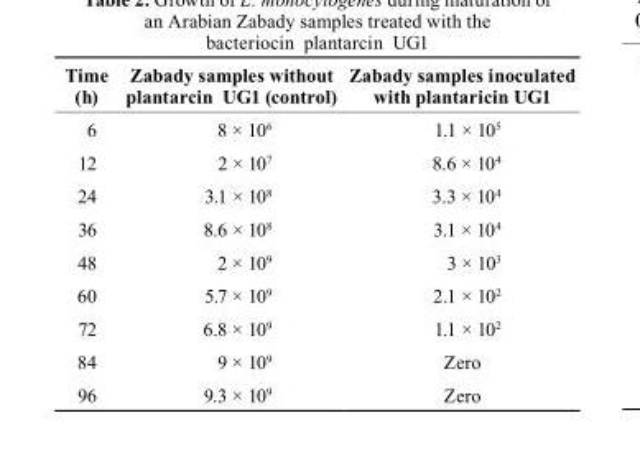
<table><thead><tr><td>time (h)</td><td>Zabady samples without plantarcin UG1 (control)</td><td>Zabady samples inoculated with plantaricin UG1</td></tr></thead><tbody><tr><td>6</td><td>8 × 10<sup>6</sup></td><td>1.1 × 10<sup>5</sup></td></tr><tr><td>12</td><td>2 × 10<sup>7</sup></td><td>8.6 × 10<sup>4</sup></td></tr><tr><td>24</td><td>3.1 × 10<sup>8</sup></td><td>3.3 × 10<sup>4</sup></td></tr><tr><td>36</td><td>8.6 × 10<sup>8</sup></td><td>3.1 × 10<sup>4</sup></td></tr><tr><td>48</td><td>2 × 10<sup>9</sup></td><td>3 × 10<sup>3</sup></td></tr><tr><td>60</td><td>5.7 × 10<sup>9</sup></td><td>2.1 × 10<sup>2</sup></td></tr><tr><td>72</td><td>6.8 × 10<sup>9</sup></td><td>1.1 × 10<sup>2</sup></td></tr><tr><td>84</td><td>9 × 10<sup>9</sup></td><td>Zero</td></tr><tr><td>96</td><td>9.3 × 10<sup>9</sup></td><td>Zero</td></tr></tbody></table>